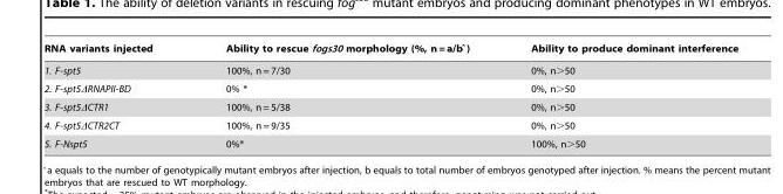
<table><thead><tr><td>RNA variants injected</td><td>Ability to rescue fogs30 morphology (%, n = a/bˆ )</td><td>Ability to produce dominant interference</td></tr></thead><tbody><tr><td>1. F-spt5</td><td>100%, n = 7/30</td><td>0%, n&gt;50</td></tr><tr><td>2. F-spt5ΔRNAPII-BD</td><td>0% *</td><td>0%, n&gt;50</td></tr><tr><td>3. F-spt5ΔCTR1</td><td>100%, n = 5/38</td><td>0%, n&gt;50</td></tr><tr><td>4. F-spt5ΔCTR2CT</td><td>100%, n = 9/35</td><td>0%, n&gt;50</td></tr><tr><td>5. F-Nspt5</td><td>0%*</td><td>100%, n&gt;50</td></tr></tbody></table>